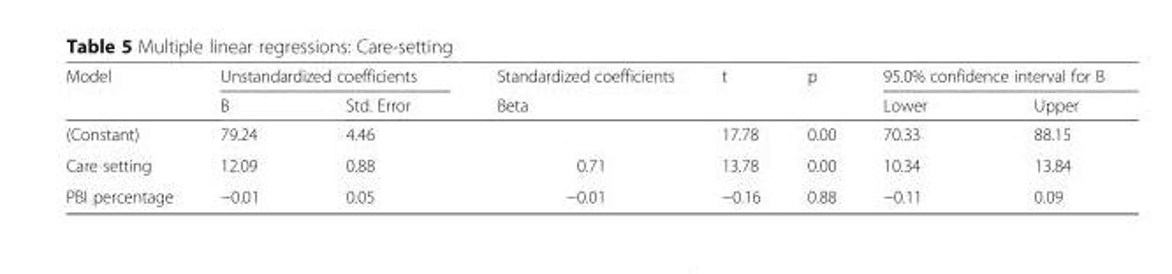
<table><thead><tr><td rowspan="2">Model</td><td colspan="2">Unstandardized coefficients</td><td rowspan="2">Standardized coefficients Beta</td><td rowspan="2">t</td><td rowspan="2">p</td><td colspan="2">95.0% confidence interval for B</td></tr><tr><td>B</td><td>Std. Error</td><td>Lower</td><td>Upper</td></tr></thead><tbody><tr><td>(Constant)</td><td>79.24</td><td>4.46</td><td></td><td>17.78</td><td>0.00</td><td>70.33</td><td>88.15</td></tr><tr><td>Care setting</td><td>12.09</td><td>0.88</td><td>0.71</td><td>13.78</td><td>0.00</td><td>10.34</td><td>13.84</td></tr><tr><td>PBI percentage</td><td>−0.01</td><td>0.05</td><td>−0.01</td><td>−0.16</td><td>0.88</td><td>−0.11</td><td>0.09</td></tr></tbody></table>